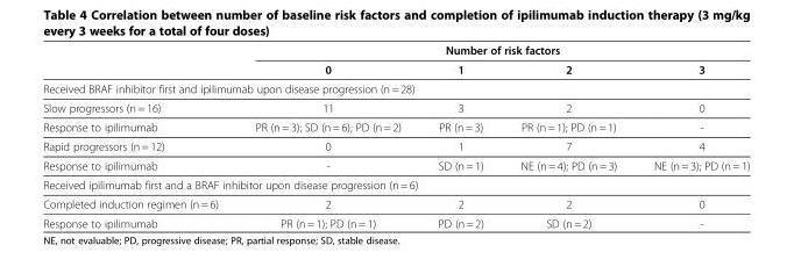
<table><thead><tr><td rowspan="2"></td><td colspan="4">Number of risk factors</td></tr><tr><td>0</td><td>1</td><td>2</td><td>3</td></tr></thead><tbody><tr><td colspan="5">Received BRAF inhibitor first and ipilimumab upon disease progression (n = 28)</td></tr><tr><td>Slow progressors (n = 16)</td><td>11</td><td>3</td><td>2</td><td>0</td></tr><tr><td>Response to ipilimumab</td><td>PR (n = 3); SD (n = 6); PD (n = 2)</td><td>PR (n = 3)</td><td>PR (n = 1); PD (n = 1)</td><td>-</td></tr><tr><td>Rapid progressors (n = 12)</td><td>0</td><td>1</td><td>7</td><td>4</td></tr><tr><td>Response to ipilimumab</td><td>-</td><td>SD (n = 1)</td><td>NE (n = 4); PD (n = 3)</td><td>NE (n = 3); PD (n = 1)</td></tr><tr><td colspan="5">Received ipilimumab first and a BRAF inhibitor upon disease progression (n = 6)</td></tr><tr><td>Completed induction regimen (n = 6)</td><td>2</td><td>2</td><td>2</td><td>0</td></tr><tr><td>Response to ipilimumab</td><td>PR (n = 1); PD (n = 1)</td><td>PD (n = 2)</td><td>SD (n = 2)</td><td>-</td></tr></tbody></table>